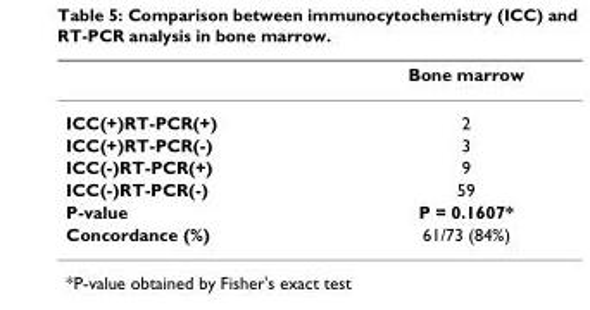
<table><thead><tr><td></td><td>Bone marrow</td></tr></thead><tbody><tr><td>ICC(+)RT-PCR(+)</td><td>2</td></tr><tr><td>ICC(+)RT-PCR(-)</td><td>3</td></tr><tr><td>ICC(-)RT-PCR(+)</td><td>9</td></tr><tr><td>ICC(-)RT-PCR(-)</td><td>59</td></tr><tr><td>P-value</td><td>P = 0.1607*</td></tr><tr><td>Concordance (%)</td><td>61/73 (84%)</td></tr></tbody></table>